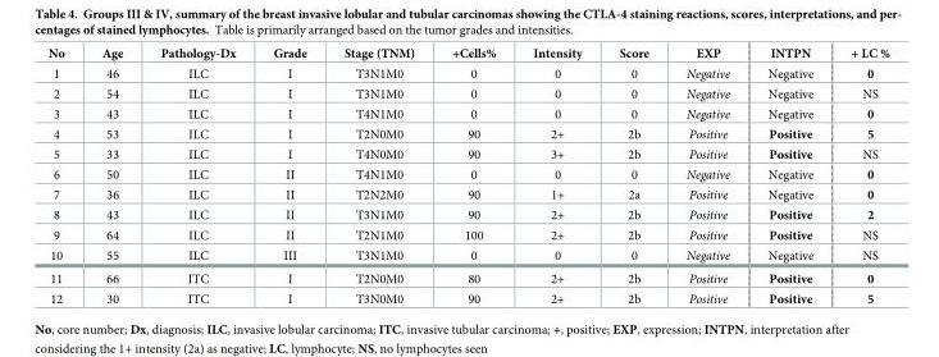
<table><thead><tr><td>No</td><td>Age</td><td>Pathology-Dx</td><td>Grade</td><td>Stage (TNM)</td><td>+Cells%</td><td>Intensity</td><td>Score</td><td>EXP</td><td>INTPN</td><td>+ LC %</td></tr></thead><tbody><tr><td>1</td><td>46</td><td>ILC</td><td>I</td><td>T3N1M0</td><td>0</td><td>0</td><td>0</td><td>Negative</td><td>Negative</td><td>0</td></tr><tr><td>2</td><td>54</td><td>ILC</td><td>I</td><td>T3N1M0</td><td>0</td><td>0</td><td>0</td><td>Negative</td><td>Negative</td><td>NS</td></tr><tr><td>3</td><td>43</td><td>ILC</td><td>I</td><td>T4N1M0</td><td>0</td><td>0</td><td>0</td><td>Negative</td><td>Negative</td><td>0</td></tr><tr><td>4</td><td>53</td><td>ILC</td><td>I</td><td>T2N0M0</td><td>90</td><td>2+</td><td>2b</td><td>Positive</td><td>Positive</td><td>5</td></tr><tr><td>5</td><td>33</td><td>ILC</td><td>I</td><td>T4N0M0</td><td>90</td><td>3+</td><td>2b</td><td>Positive</td><td>Positive</td><td>NS</td></tr><tr><td>6</td><td>50</td><td>ILC</td><td>II</td><td>T4N1M0</td><td>0</td><td>0</td><td>0</td><td>Negative</td><td>Negative</td><td>0</td></tr><tr><td>7</td><td>36</td><td>ILC</td><td>II</td><td>T2N2M0</td><td>90</td><td>1+</td><td>2a</td><td>Positive</td><td>Negative</td><td>0</td></tr><tr><td>8</td><td>43</td><td>ILC</td><td>II</td><td>T3N1M0</td><td>90</td><td>2+</td><td>2b</td><td>Positive</td><td>Positive</td><td>2</td></tr><tr><td>9</td><td>64</td><td>ILC</td><td>II</td><td>T2N1M0</td><td>100</td><td>2+</td><td>2b</td><td>Positive</td><td>Positive</td><td>NS</td></tr><tr><td>10</td><td>55</td><td>ILC</td><td>III</td><td>T3N1M0</td><td>0</td><td>0</td><td>0</td><td>Negative</td><td>Negative</td><td>NS</td></tr><tr><td>11</td><td>66</td><td>ITC</td><td>I</td><td>T2N0M0</td><td>80</td><td>2+</td><td>2b</td><td>Positive</td><td>Positive</td><td>0</td></tr><tr><td>12</td><td>30</td><td>ITC</td><td>I</td><td>T3N0M0</td><td>90</td><td>2+</td><td>2b</td><td>Positive</td><td>Positive</td><td>5</td></tr></tbody></table>